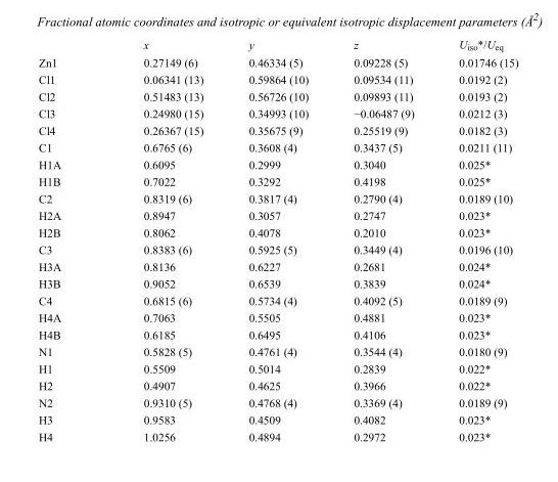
<table><thead><tr><td></td><td>x</td><td>y</td><td>z</td><td>U<sub>iso</sub>*/U<sub>eq</sub></td></tr></thead><tbody><tr><td>Zn1</td><td>0.27149 (6)</td><td>0.46334 (5)</td><td>0.09228 (5)</td><td>0.01746 (15)</td></tr><tr><td>Cl1</td><td>0.06341 (13)</td><td>0.59864 (10)</td><td>0.09534 (11)</td><td>0.0192 (2)</td></tr><tr><td>Cl2</td><td>0.51483 (13)</td><td>0.56726 (10)</td><td>0.09893 (11)</td><td>0.0193 (2)</td></tr><tr><td>Cl3</td><td>0.24980 (15)</td><td>0.34993 (10)</td><td>−0.06487 (9)</td><td>0.0212 (3)</td></tr><tr><td>Cl4</td><td>0.26367 (15)</td><td>0.35675 (9)</td><td>0.25519 (9)</td><td>0.0182 (3)</td></tr><tr><td>C1</td><td>0.6765 (6)</td><td>0.3608 (4)</td><td>0.3437 (5)</td><td>0.0211 (11)</td></tr><tr><td>H1A</td><td>0.6095</td><td>0.2999</td><td>0.3040</td><td>0.025*</td></tr><tr><td>H1B</td><td>0.7022</td><td>0.3292</td><td>0.4198</td><td>0.025*</td></tr><tr><td>C2</td><td>0.8319 (6)</td><td>0.3817 (4)</td><td>0.2790 (4)</td><td>0.0189 (10)</td></tr><tr><td>H2A</td><td>0.8947</td><td>0.3057</td><td>0.2747</td><td>0.023*</td></tr><tr><td>H2B</td><td>0.8062</td><td>0.4078</td><td>0.2010</td><td>0.023*</td></tr><tr><td>C3</td><td>0.8383 (6)</td><td>0.5925 (5)</td><td>0.3449 (4)</td><td>0.0196 (10)</td></tr><tr><td>H3A</td><td>0.8136</td><td>0.6227</td><td>0.2681</td><td>0.024*</td></tr><tr><td>H3B</td><td>0.9052</td><td>0.6539</td><td>0.3839</td><td>0.024*</td></tr><tr><td>C4</td><td>0.6815 (6)</td><td>0.5734 (4)</td><td>0.4092 (5)</td><td>0.0189 (9)</td></tr><tr><td>H4A</td><td>0.7063</td><td>0.5505</td><td>0.4881</td><td>0.023*</td></tr><tr><td>H4B</td><td>0.6185</td><td>0.6495</td><td>0.4106</td><td>0.023*</td></tr><tr><td>N1</td><td>0.5828 (5)</td><td>0.4761 (4)</td><td>0.3544 (4)</td><td>0.0180 (9)</td></tr><tr><td>H1</td><td>0.5509</td><td>0.5014</td><td>0.2839</td><td>0.022*</td></tr><tr><td>H2</td><td>0.4907</td><td>0.4625</td><td>0.3966</td><td>0.022*</td></tr><tr><td>N2</td><td>0.9310 (5)</td><td>0.4768 (4)</td><td>0.3369 (4)</td><td>0.0189 (9)</td></tr><tr><td>H3</td><td>0.9583</td><td>0.4509</td><td>0.4082</td><td>0.023*</td></tr><tr><td>H4</td><td>1.0256</td><td>0.4894</td><td>0.2972</td><td>0.023*</td></tr></tbody></table>